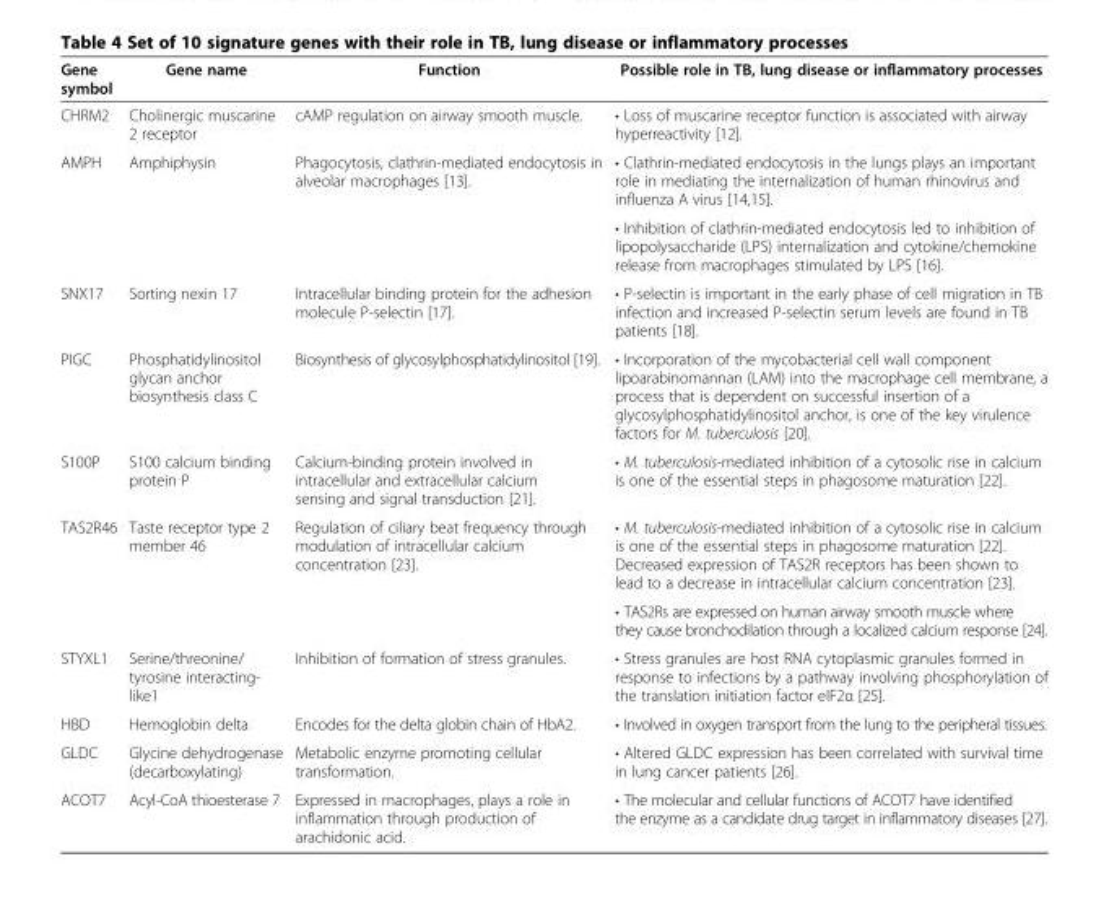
<table><thead><tr><td>Gene symbol</td><td>Gene name</td><td>Function</td><td>Possible role in TB, lung disease or inflammatory processes</td></tr></thead><tbody><tr><td>CHRM2</td><td>Cholinergic muscarine 2 receptor</td><td>cAMP regulation on airway smooth muscle.</td><td>• Loss of muscarine receptor function is associated with airway hyperreactivity [12].</td></tr><tr><td rowspan="2">AMPH</td><td rowspan="2">Amphiphysin</td><td rowspan="2">Phagocytosis, clathrin-mediated endocytosis in alveolar macrophages [13].</td><td>• Clathrin-mediated endocytosis in the lungs plays an important role in mediating the internalization of human rhinovirus and influenza A virus [14,15].</td></tr><tr><td>• Inhibition of clathrin-mediated endocytosis led to inhibition of lipopolysaccharide (LPS) internalization and cytokine/chemokine release from macrophages stimulated by LPS [16].</td></tr><tr><td>SNX17</td><td>Sorting nexin 17</td><td>Intracellular binding protein for the adhesion molecule P-selectin [17].</td><td>• P-selectin is important in the early phase of cell migration in TB infection and increased P-selectin serum levels are found in TB patients [18].</td></tr><tr><td>PIGC</td><td>Phosphatidylinositol glycan anchor biosynthesis class C</td><td>Biosynthesis of glycosylphosphatidylinositol [19].</td><td>• Incorporation of the mycobacterial cell wall component lipoarabinomannan (LAM) into the macrophage cell membrane, a process that is dependent on successful insertion of a glycosylphosphatidylinositol anchor, is one of the key virulence factors for M. tuberculosis [20].</td></tr><tr><td>S100P</td><td>S100 calcium binding protein P</td><td>Calcium-binding protein involved in intracellular and extracellular calcium sensing and signal transduction [21].</td><td>• M. tuberculosis-mediated inhibition of a cytosolic rise in calcium is one of the essential steps in phagosome maturation [22].</td></tr><tr><td rowspan="2">TAS2R46</td><td rowspan="2">Taste receptor type 2 member 46</td><td rowspan="2">Regulation of ciliary beat frequency through modulation of intracellular calcium concentration [23].</td><td>• M. tuberculosis-mediated inhibition of a cytosolic rise in calcium is one of the essential steps in phagosome maturation [22]. Decreased expression of TAS2R receptors has been shown to lead to a decrease in intracellular calcium concentration [23].</td></tr><tr><td>• TAS2Rs are expressed on human airway smooth muscle where they cause bronchodilation through a localized calcium response [24].</td></tr><tr><td>STYXL1</td><td>Serine/threonine/ tyrosine interacting- like1</td><td>Inhibition of formation of stress granules.</td><td>• Stress granules are host RNA cytoplasmic granules formed in response to infections by a pathway involving phosphorylation of the translation initiation factor eIF2α [25].</td></tr><tr><td>HBD</td><td>Hemoglobin delta</td><td>Encodes for the delta globin chain of HbA2.</td><td>• Involved in oxygen transport from the lung to the peripheral tissues.</td></tr><tr><td>GLDC</td><td>Glycine dehydrogenase (decarboxylating)</td><td>Metabolic enzyme promoting cellular transformation.</td><td>• Altered GLDC expression has been correlated with survival time in lung cancer patients [26].</td></tr><tr><td>ACOT7</td><td>Acyl-CoA thioesterase 7</td><td>Expressed in macrophages, plays a role in inflammation through production of arachidonic acid.</td><td>• The molecular and cellular functions of ACOT7 have identified the enzyme as a candidate drug target in inflammatory diseases [27].</td></tr></tbody></table>